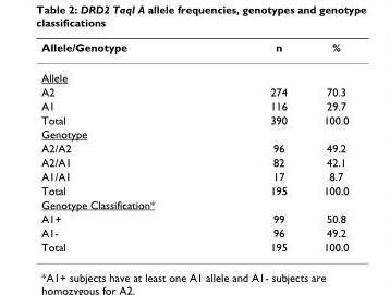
<table><thead><tr><td>Allele/Genotype</td><td>n</td><td>%</td></tr></thead><tbody><tr><td colspan="3">Allele</td></tr><tr><td>A2</td><td>274</td><td>70.3</td></tr><tr><td>A1</td><td>116</td><td>29.7</td></tr><tr><td>Total</td><td>390</td><td>100.0</td></tr><tr><td colspan="3">Genotype</td></tr><tr><td>A2/A2</td><td>96</td><td>49.2</td></tr><tr><td>A2/A1</td><td>82</td><td>42.1</td></tr><tr><td>A1/A1</td><td>17</td><td>8.7</td></tr><tr><td>Total</td><td>195</td><td>100.0</td></tr><tr><td colspan="3">Genotype Classification*</td></tr><tr><td>A1+</td><td>99</td><td>50.8</td></tr><tr><td>A1-</td><td>96</td><td>49.2</td></tr><tr><td>Total</td><td>195</td><td>100.0</td></tr></tbody></table>